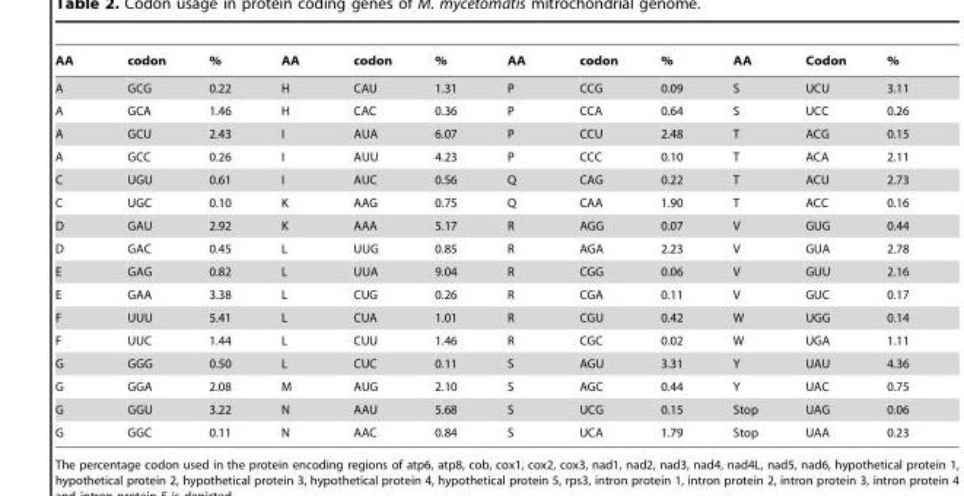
<table><thead><tr><td>AA</td><td>codon</td><td>%</td><td>AA</td><td>codon</td><td>%</td><td>AA</td><td>codon</td><td>%</td><td>AA</td><td>Codon</td><td>%</td></tr></thead><tbody><tr><td>A</td><td>GCG</td><td>0.22</td><td>H</td><td>CAU</td><td>1.31</td><td>P</td><td>CCG</td><td>0.09</td><td>S</td><td>UCU</td><td>3.11</td></tr><tr><td>A</td><td>GCA</td><td>1.46</td><td>H</td><td>CAC</td><td>0.36</td><td>P</td><td>CCA</td><td>0.64</td><td>S</td><td>UCC</td><td>0.26</td></tr><tr><td>A</td><td>GCU</td><td>2.43</td><td>I</td><td>AUA</td><td>6.07</td><td>P</td><td>CCU</td><td>2.48</td><td>T</td><td>ACG</td><td>0.15</td></tr><tr><td>A</td><td>GCC</td><td>0.26</td><td>I</td><td>AUU</td><td>4.23</td><td>P</td><td>CCC</td><td>0.10</td><td>T</td><td>ACA</td><td>2.11</td></tr><tr><td>C</td><td>UGU</td><td>0.61</td><td>I</td><td>AUC</td><td>0.56</td><td>Q</td><td>CAG</td><td>0.22</td><td>T</td><td>ACU</td><td>2.73</td></tr><tr><td>C</td><td>UGC</td><td>0.10</td><td>K</td><td>AAG</td><td>0.75</td><td>Q</td><td>CAA</td><td>1.90</td><td>T</td><td>ACC</td><td>0.16</td></tr><tr><td>D</td><td>GAU</td><td>2.92</td><td>K</td><td>AAA</td><td>5.17</td><td>R</td><td>AGG</td><td>0.07</td><td>V</td><td>GUG</td><td>0.44</td></tr><tr><td>D</td><td>GAC</td><td>0.45</td><td>L</td><td>UUG</td><td>0.85</td><td>R</td><td>AGA</td><td>2.23</td><td>V</td><td>GUA</td><td>2.78</td></tr><tr><td>E</td><td>GAG</td><td>0.82</td><td>L</td><td>UUA</td><td>9.04</td><td>R</td><td>CGG</td><td>0.06</td><td>V</td><td>GUU</td><td>2.16</td></tr><tr><td>E</td><td>GAA</td><td>3.38</td><td>L</td><td>CUG</td><td>0.26</td><td>R</td><td>CGA</td><td>0.11</td><td>V</td><td>GUC</td><td>0.17</td></tr><tr><td>F</td><td>UUU</td><td>5.41</td><td>L</td><td>CUA</td><td>1.01</td><td>R</td><td>CGU</td><td>0.42</td><td>W</td><td>UGG</td><td>0.14</td></tr><tr><td>F</td><td>UUC</td><td>1.44</td><td>L</td><td>CUU</td><td>1.46</td><td>R</td><td>CGC</td><td>0.02</td><td>W</td><td>UGA</td><td>1.11</td></tr><tr><td>G</td><td>GGG</td><td>0.50</td><td>L</td><td>CUC</td><td>0.11</td><td>S</td><td>AGU</td><td>3.31</td><td>Y</td><td>UAU</td><td>4.36</td></tr><tr><td>G</td><td>GGA</td><td>2.08</td><td>M</td><td>AUG</td><td>2.10</td><td>S</td><td>AGC</td><td>0.44</td><td>Y</td><td>UAC</td><td>0.75</td></tr><tr><td>G</td><td>GGU</td><td>3.22</td><td>N</td><td>AAU</td><td>5.68</td><td>S</td><td>UCG</td><td>0.15</td><td>Stop</td><td>UAG</td><td>0.06</td></tr><tr><td>G</td><td>GGC</td><td>0.11</td><td>N</td><td>AAC</td><td>0.84</td><td>S</td><td>UCA</td><td>1.79</td><td>Stop</td><td>UAA</td><td>0.23</td></tr></tbody></table>